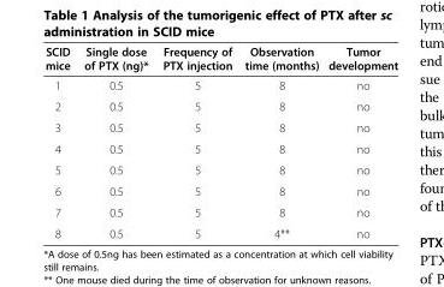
<table><thead><tr><td>SCID mice</td><td>Single dose of PTX (ng)*</td><td>Frequency of PTX injection</td><td>Observation time (months)</td><td>Tumor development</td></tr></thead><tbody><tr><td>1</td><td>0.5</td><td>5</td><td>8</td><td>no</td></tr><tr><td>2</td><td>0.5</td><td>5</td><td>8</td><td>no</td></tr><tr><td>3</td><td>0.5</td><td>5</td><td>8</td><td>no</td></tr><tr><td>4</td><td>0.5</td><td>5</td><td>8</td><td>no</td></tr><tr><td>5</td><td>0.5</td><td>5</td><td>8</td><td>no</td></tr><tr><td>6</td><td>0.5</td><td>5</td><td>8</td><td>no</td></tr><tr><td>7</td><td>0.5</td><td>5</td><td>8</td><td>no</td></tr><tr><td>8</td><td>0.5</td><td>5</td><td>4**</td><td>no</td></tr></tbody></table>